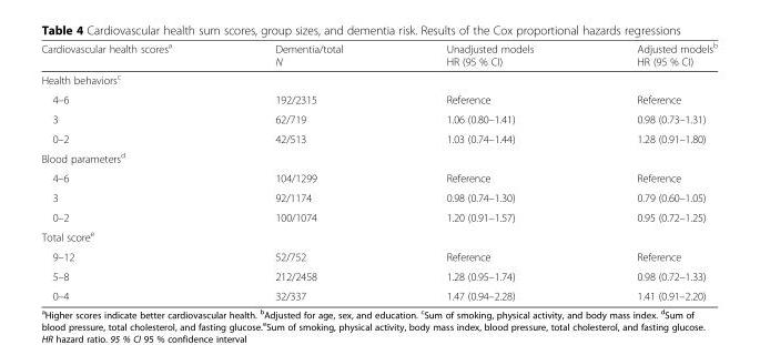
<table><thead><tr><td>Cardiovascular health scores<sup>a</sup></td><td>Dementia/total N</td><td>Unadjusted models HR (95 % CI)</td><td>Adjusted models<sup>b</sup> HR (95 % CI)</td></tr></thead><tbody><tr><td colspan="4">Health behaviors<sup>c</sup></td></tr><tr><td>4–6</td><td>192/2315</td><td>Reference</td><td>Reference</td></tr><tr><td>3</td><td>62/719</td><td>1.06 (0.80–1.41)</td><td>0.98 (0.73–1.31)</td></tr><tr><td>0–2</td><td>42/513</td><td>1.03 (0.74–1.44)</td><td>1.28 (0.91–1.80)</td></tr><tr><td colspan="4">Blood parameters<sup>d</sup></td></tr><tr><td>4–6</td><td>104/1299</td><td>Reference</td><td>Reference</td></tr><tr><td>3</td><td>92/1174</td><td>0.98 (0.74–1.30)</td><td>0.79 (0.60–1.05)</td></tr><tr><td>0–2</td><td>100/1074</td><td>1.20 (0.91–1.57)</td><td>0.95 (0.72–1.25)</td></tr><tr><td colspan="4">Total score<sup>e</sup></td></tr><tr><td>9–12</td><td>52/752</td><td>Reference</td><td>Reference</td></tr><tr><td>5–8</td><td>212/2458</td><td>1.28 (0.95–1.74)</td><td>0.98 (0.72–1.33)</td></tr><tr><td>0–4</td><td>32/337</td><td>1.47 (0.94–2.28)</td><td>1.41 (0.91–2.20)</td></tr></tbody></table>